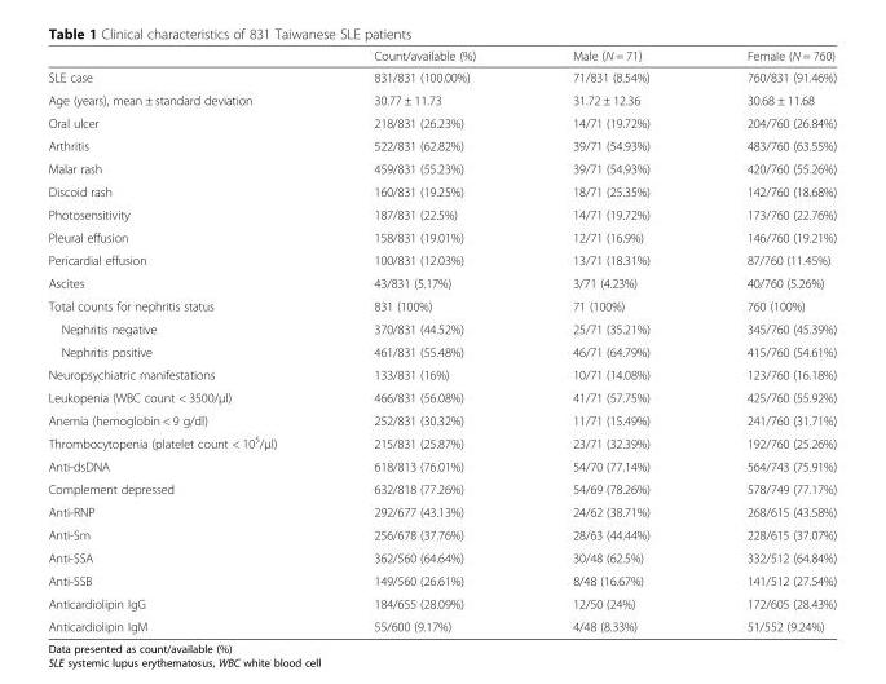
<table><thead><tr><td></td><td>Count/available (%)</td><td>Male (N = 71)</td><td>Female (N = 760)</td></tr></thead><tbody><tr><td>SLE case</td><td>831/831 (100.00%)</td><td>71/831 (8.54%)</td><td>760/831 (91.46%)</td></tr><tr><td>Age (years), mean ± standard deviation</td><td>30.77 ± 11.73</td><td>31.72 ± 12.36</td><td>30.68 ± 11.68</td></tr><tr><td>Oral ulcer</td><td>218/831 (26.23%)</td><td>14/71 (19.72%)</td><td>204/760 (26.84%)</td></tr><tr><td>Arthritis</td><td>522/831 (62.82%)</td><td>39/71 (54.93%)</td><td>483/760 (63.55%)</td></tr><tr><td>Malar rash</td><td>459/831 (55.23%)</td><td>39/71 (54.93%)</td><td>420/760 (55.26%)</td></tr><tr><td>Discoid rash</td><td>160/831 (19.25%)</td><td>18/71 (25.35%)</td><td>142/760 (18.68%)</td></tr><tr><td>Photosensitivity</td><td>187/831 (22.5%)</td><td>14/71 (19.72%)</td><td>173/760 (22.76%)</td></tr><tr><td>Pleural effusion</td><td>158/831 (19.01%)</td><td>12/71 (16.9%)</td><td>146/760 (19.21%)</td></tr><tr><td>Pericardial effusion</td><td>100/831 (12.03%)</td><td>13/71 (18.31%)</td><td>87/760 (11.45%)</td></tr><tr><td>Ascites</td><td>43/831 (5.17%)</td><td>3/71 (4.23%)</td><td>40/760 (5.26%)</td></tr><tr><td>Total counts for nephritis status</td><td>831 (100%)</td><td>71 (100%)</td><td>760 (100%)</td></tr><tr><td>Nephritis negative</td><td>370/831 (44.52%)</td><td>25/71 (35.21%)</td><td>345/760 (45.39%)</td></tr><tr><td>Nephritis positive</td><td>461/831 (55.48%)</td><td>46/71 (64.79%)</td><td>415/760 (54.61%)</td></tr><tr><td>Neuropsychiatric manifestations</td><td>133/831 (16%)</td><td>10/71 (14.08%)</td><td>123/760 (16.18%)</td></tr><tr><td>Leukopenia (WBC count &lt; 3500/μl)</td><td>466/831 (56.08%)</td><td>41/71 (57.75%)</td><td>425/760 (55.92%)</td></tr><tr><td>Anemia (hemoglobin &lt; 9 g/dl)</td><td>252/831 (30.32%)</td><td>11/71 (15.49%)</td><td>241/760 (31.71%)</td></tr><tr><td>Thrombocytopenia (platelet count &lt; 10<sup>5</sup>/μl)</td><td>215/831 (25.87%)</td><td>23/71 (32.39%)</td><td>192/760 (25.26%)</td></tr><tr><td>Anti-dsDNA</td><td>618/813 (76.01%)</td><td>54/70 (77.14%)</td><td>564/743 (75.91%)</td></tr><tr><td>Complement depressed</td><td>632/818 (77.26%)</td><td>54/69 (78.26%)</td><td>578/749 (77.17%)</td></tr><tr><td>Anti-RNP</td><td>292/677 (43.13%)</td><td>24/62 (38.71%)</td><td>268/615 (43.58%)</td></tr><tr><td>Anti-Sm</td><td>256/678 (37.76%)</td><td>28/63 (44.44%)</td><td>228/615 (37.07%)</td></tr><tr><td>Anti-SSA</td><td>362/560 (64.64%)</td><td>30/48 (62.5%)</td><td>332/512 (64.84%)</td></tr><tr><td>Anti-SSB</td><td>149/560 (26.61%)</td><td>8/48 (16.67%)</td><td>141/512 (27.54%)</td></tr><tr><td>Anticardiolipin IgG</td><td>184/655 (28.09%)</td><td>12/50 (24%)</td><td>172/605 (28.43%)</td></tr><tr><td>Anticardiolipin IgM</td><td>55/600 (9.17%)</td><td>4/48 (8.33%)</td><td>51/552 (9.24%)</td></tr></tbody></table>